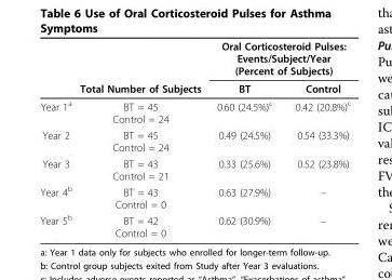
<table><thead><tr><td rowspan="2"></td><td rowspan="2">Total Number of Subjects</td><td colspan="2">Oral Corticosteroid Pulses: Events/Subject/Year (Percent of Subjects)</td></tr><tr><td>BT</td><td>Control</td></tr></thead><tbody><tr><td>Year 1<sup>a</sup></td><td>BT = 45 Control = 24</td><td>0.60 (24.5%)<sup>c</sup></td><td>0.42 (20.8%)<sup>c</sup></td></tr><tr><td>Year 2</td><td>BT = 45 Control = 24</td><td>0.49 (24.5%)</td><td>0.54 (33.3%)</td></tr><tr><td>Year 3</td><td>BT = 43 Control = 21</td><td>0.33 (25.6%)</td><td>0.52 (23.8%)</td></tr><tr><td>Year 4<sup>b</sup></td><td>BT = 43 Control = 0</td><td>0.63 (27.9%)</td><td>–</td></tr><tr><td>Year 5<sup>b</sup></td><td>BT = 42 Control = 0</td><td>0.62 (30.9%)</td><td>–</td></tr></tbody></table>